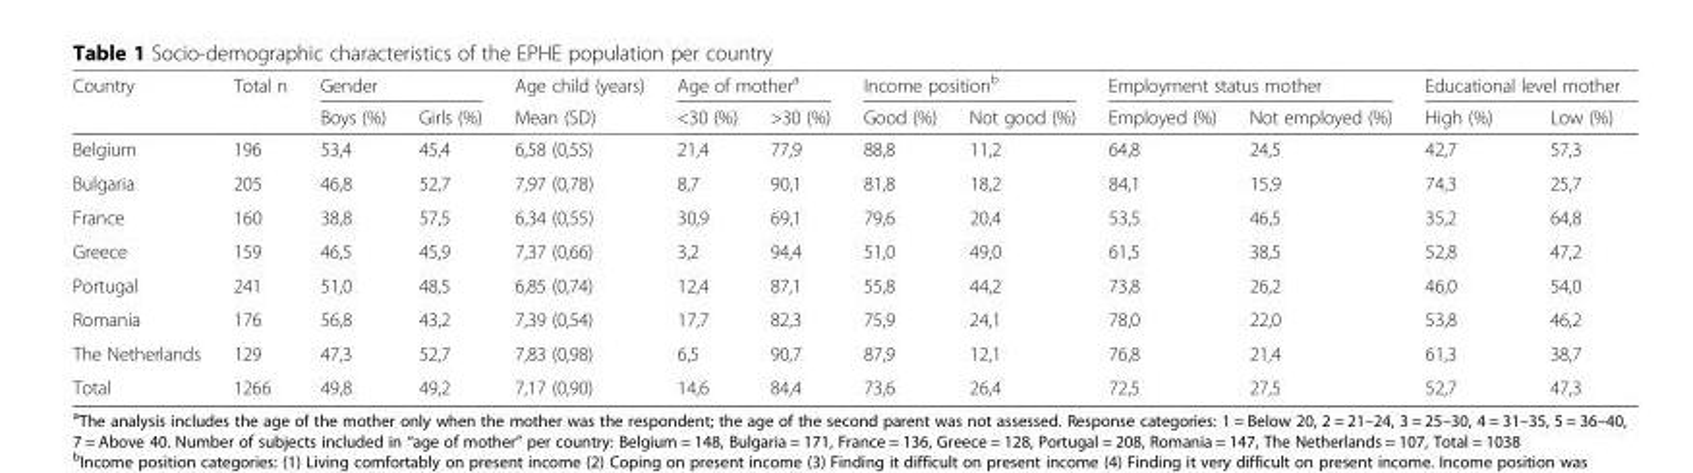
<table><thead><tr><td rowspan="2">Country</td><td rowspan="2">Total n</td><td colspan="2">Gender</td><td rowspan="2">Age child (years) Mean (SD)</td><td colspan="2">Age of mother<sup>a</sup></td><td colspan="2">Income position<sup>b</sup></td><td colspan="2">Employment status mother</td><td colspan="2">Educational level mother</td></tr><tr><td>Boys (%)</td><td>Girls (%)</td><td>&lt;30 (%)</td><td>&gt;30 (%)</td><td>Good (%)</td><td>Not good (%)</td><td>Employed (%)</td><td>Not employed (%)</td><td>High (%)</td><td>Low (%)</td></tr></thead><tbody><tr><td>Belgium</td><td>196</td><td>53,4</td><td>45,4</td><td>6,58 (0,55)</td><td>21,4</td><td>77,9</td><td>88,8</td><td>11,2</td><td>64,8</td><td>24,5</td><td>42,7</td><td>57,3</td></tr><tr><td>Bulgaria</td><td>205</td><td>46,8</td><td>52,7</td><td>7,97 (0,78)</td><td>8,7</td><td>90,1</td><td>81,8</td><td>18,2</td><td>84,1</td><td>15,9</td><td>74,3</td><td>25,7</td></tr><tr><td>France</td><td>160</td><td>38,8</td><td>57,5</td><td>6,34 (0,55)</td><td>30,9</td><td>69,1</td><td>79,6</td><td>20,4</td><td>53,5</td><td>46,5</td><td>35,2</td><td>64,8</td></tr><tr><td>Greece</td><td>159</td><td>46,5</td><td>45,9</td><td>7,37 (0,66)</td><td>3,2</td><td>94,4</td><td>51,0</td><td>49,0</td><td>61,5</td><td>38,5</td><td>52,8</td><td>47,2</td></tr><tr><td>Portugal</td><td>241</td><td>51,0</td><td>48,5</td><td>6,85 (0,74)</td><td>12,4</td><td>87,1</td><td>55,8</td><td>44,2</td><td>73,8</td><td>26,2</td><td>46,0</td><td>54,0</td></tr><tr><td>Romania</td><td>176</td><td>56,8</td><td>43,2</td><td>7,39 (0,54)</td><td>17,7</td><td>82,3</td><td>75,9</td><td>24,1</td><td>78,0</td><td>22,0</td><td>53,8</td><td>46,2</td></tr><tr><td>The Netherlands</td><td>129</td><td>47,3</td><td>52,7</td><td>7,83 (0,98)</td><td>6,5</td><td>90,7</td><td>87,9</td><td>12,1</td><td>76,8</td><td>21,4</td><td>61,3</td><td>38,7</td></tr><tr><td>Total</td><td>1266</td><td>49,8</td><td>49,2</td><td>7,17 (0,90)</td><td>14,6</td><td>84,4</td><td>73,6</td><td>26,4</td><td>72,5</td><td>27,5</td><td>52,7</td><td>47,3</td></tr></tbody></table>